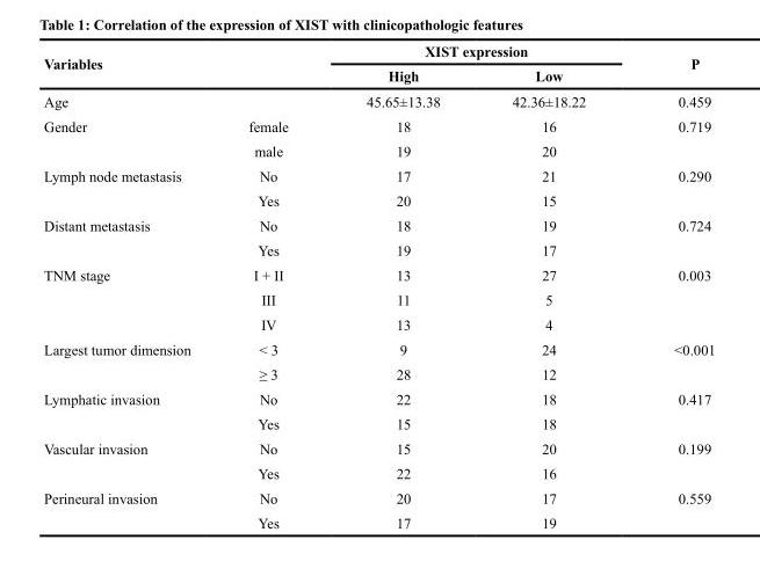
<table><thead><tr><td rowspan="2" colspan="2">Variables</td><td colspan="2">XIST expression</td><td rowspan="3">P 0.459</td></tr><tr><td rowspan="2">High 45.65±13.38</td><td rowspan="2">Low 42.36±18.22</td></tr><tr><td>Age</td><td></td></tr></thead><tbody><tr><td rowspan="2">Gender</td><td>female</td><td>18</td><td>16</td><td>0.719</td></tr><tr><td>male</td><td>19</td><td>20</td><td></td></tr><tr><td rowspan="2">Lymph node metastasis</td><td>No</td><td>17</td><td>21</td><td>0.290</td></tr><tr><td>Yes</td><td>20</td><td>15</td><td></td></tr><tr><td rowspan="2">Distant metastasis</td><td>No</td><td>18</td><td>19</td><td>0.724</td></tr><tr><td>Yes</td><td>19</td><td>17</td><td></td></tr><tr><td rowspan="3">TNM stage</td><td>I + II</td><td>13</td><td>27</td><td>0.003</td></tr><tr><td>III</td><td>11</td><td>5</td><td></td></tr><tr><td>IV</td><td>13</td><td>4</td><td></td></tr><tr><td rowspan="2">Largest tumor dimension</td><td>&lt; 3</td><td>9</td><td>24</td><td>&lt;0.001</td></tr><tr><td>≥ 3</td><td>28</td><td>12</td><td></td></tr><tr><td rowspan="2">Lymphatic invasion</td><td>No</td><td>22</td><td>18</td><td>0.417</td></tr><tr><td>Yes</td><td>15</td><td>18</td><td></td></tr><tr><td rowspan="2">Vascular invasion</td><td>No</td><td>15</td><td>20</td><td>0.199</td></tr><tr><td>Yes</td><td>22</td><td>16</td><td></td></tr><tr><td rowspan="2">Perineural invasion</td><td>No</td><td>20</td><td>17</td><td>0.559</td></tr><tr><td>Yes</td><td>17</td><td>19</td><td></td></tr></tbody></table>